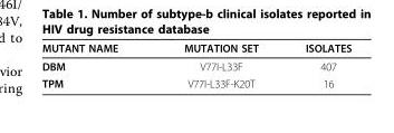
<table><thead><tr><td>MUTANT NAME</td><td>MUTATION SET</td><td>ISOLATES</td></tr></thead><tbody><tr><td>DBM</td><td>V77I-L33F</td><td>407</td></tr><tr><td>TPM</td><td>V77I-L33F-K20T</td><td>16</td></tr></tbody></table>